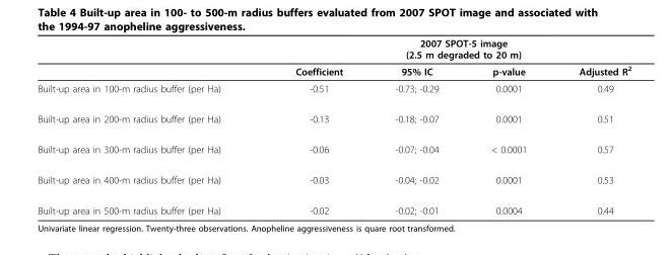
<table><thead><tr><td rowspan="2"></td><td colspan="4">2007 SPOT-5 image (2.5 m degraded to 20 m)</td></tr><tr><td>Coefficient</td><td>95% IC</td><td>p-value</td><td>Adjusted R<sup>2</sup></td></tr></thead><tbody><tr><td>Built-up area in 100-m radius buffer (per Ha)</td><td>-0.51</td><td>-0.73; -0.29</td><td>0.0001</td><td>0.49</td></tr><tr><td>Built-up area in 200-m radius buffer (per Ha)</td><td>-0.13</td><td>-0.18; -0.07</td><td>0.0001</td><td>0.51</td></tr><tr><td>Built-up area in 300-m radius buffer (per Ha)</td><td>-0.06</td><td>-0.07; -0.04</td><td>&lt; 0.0001</td><td>0.57</td></tr><tr><td>Built-up area in 400-m radius buffer (per Ha)</td><td>-0.03</td><td>-0.04; -0.02</td><td>0.0001</td><td>0.53</td></tr><tr><td>Built-up area in 500-m radius buffer (per Ha)</td><td>-0.02</td><td>-0.02; -0.01</td><td>0.0004</td><td>0.44</td></tr></tbody></table>